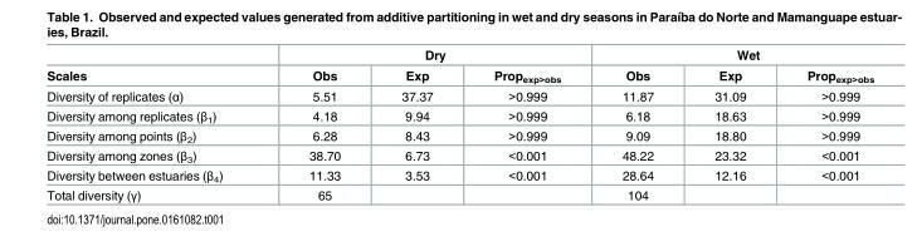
<table><thead><tr><td rowspan="2">Scales</td><td colspan="3">Dry</td><td colspan="3">Wet</td></tr><tr><td>Obs</td><td>Exp</td><td>Prop<sub>exp&gt;obs</sub></td><td>Obs</td><td>Exp</td><td>Prop<sub>exp&gt;obs</sub></td></tr></thead><tbody><tr><td>Diversity of replicates (α)</td><td>5.51</td><td>37.37</td><td>&gt;0.999</td><td>11.87</td><td>31.09</td><td>&gt;0.999</td></tr><tr><td>Diversity among replicates (β<sub>1</sub>)</td><td>4.18</td><td>9.94</td><td>&gt;0.999</td><td>6.18</td><td>18.63</td><td>&gt;0.999</td></tr><tr><td>Diversity among points (β<sub>2</sub>)</td><td>6.28</td><td>8.43</td><td>&gt;0.999</td><td>9.09</td><td>18.80</td><td>&gt;0.999</td></tr><tr><td>Diversity among zones (β<sub>3</sub>)</td><td>38.70</td><td>6.73</td><td>&lt;0.001</td><td>48.22</td><td>23.32</td><td>&lt;0.001</td></tr><tr><td>Diversity between estuaries (β<sub>4</sub>)</td><td>11.33</td><td>3.53</td><td>&lt;0.001</td><td>28.64</td><td>12.16</td><td>&lt;0.001</td></tr><tr><td>Total diversity (γ)</td><td>65</td><td></td><td></td><td>104</td><td></td><td></td></tr></tbody></table>